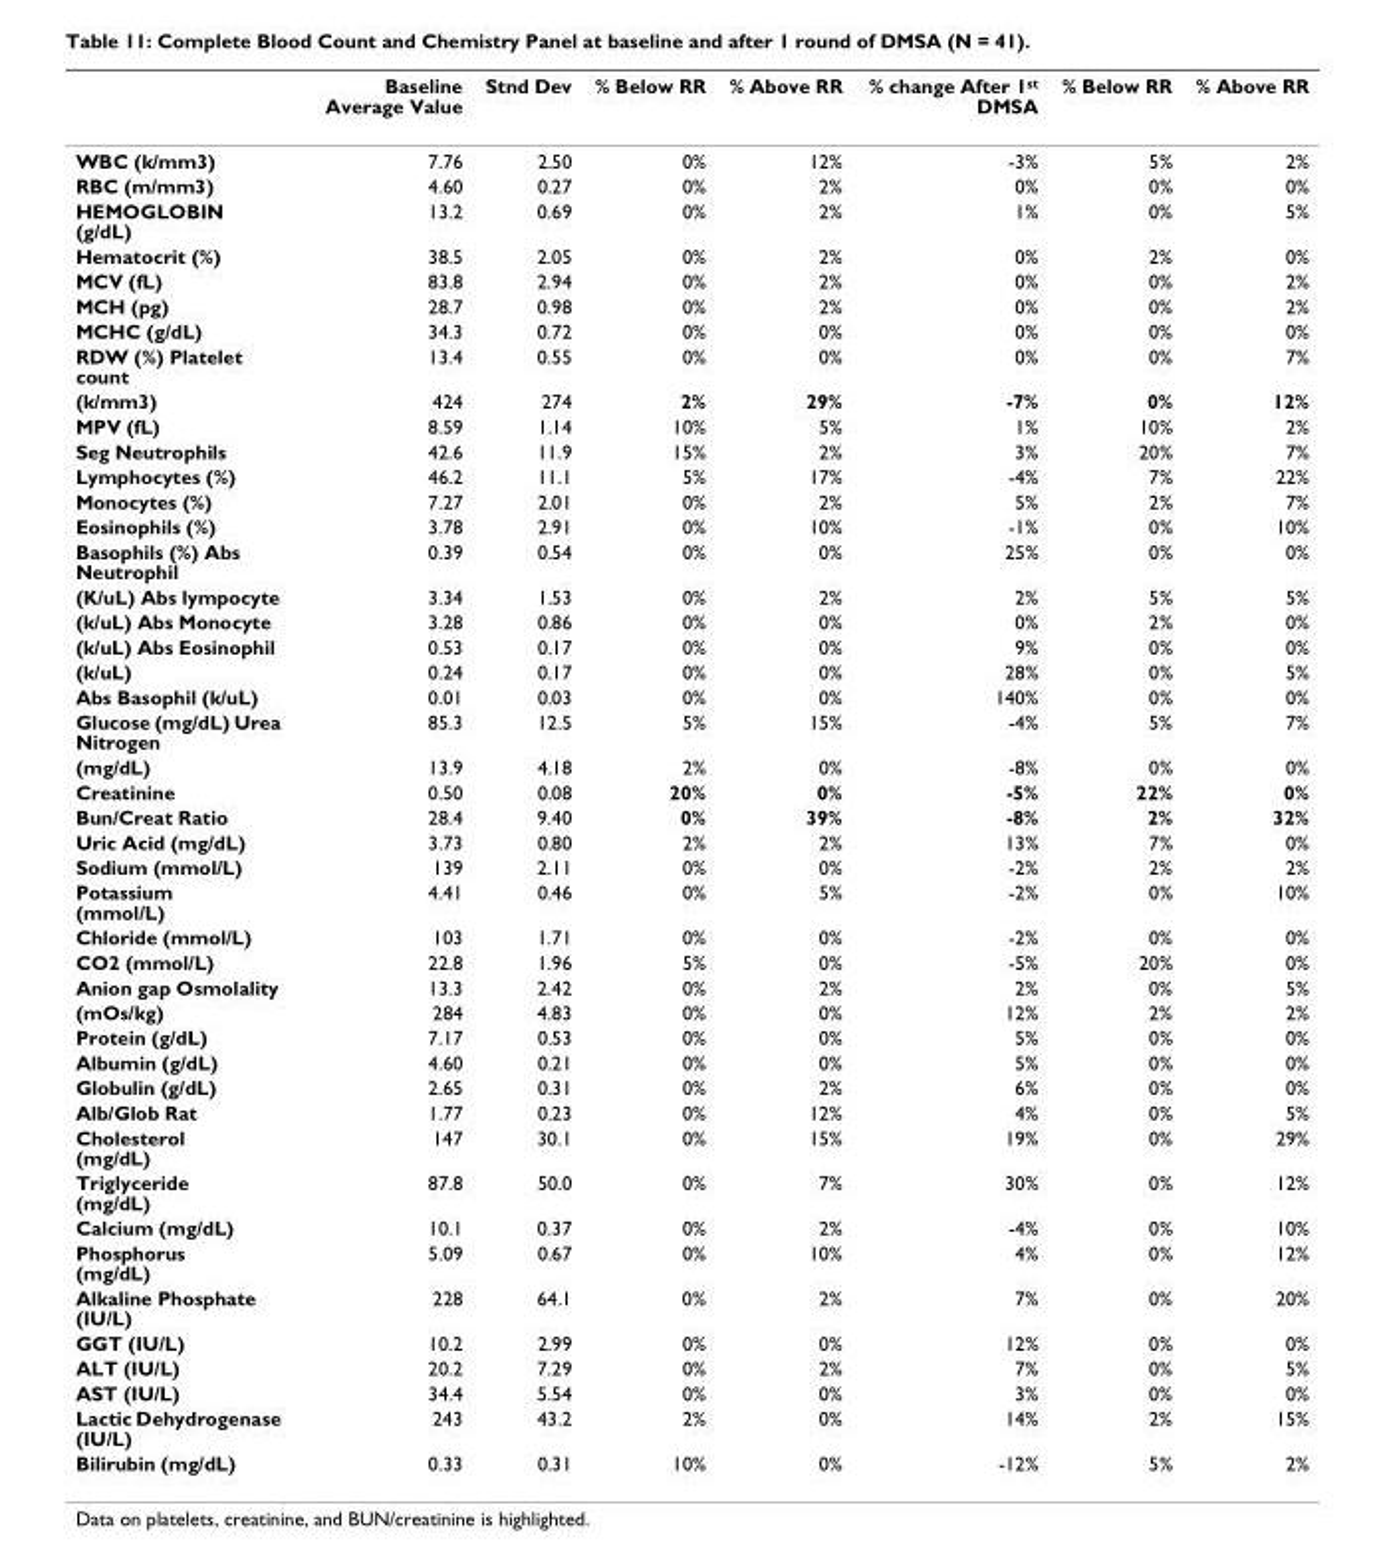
<table><thead><tr><td></td><td>Baseline Average Value</td><td>Stnd Dev</td><td>% Below RR</td><td>% Above RR</td><td>% change After 1<sup>st</sup> DMSA</td><td>% Below RR</td><td>% Above RR</td></tr></thead><tbody><tr><td>WBC (k/mm3)</td><td>7.76</td><td>2.50</td><td>0%</td><td>12%</td><td>-3%</td><td>5%</td><td>2%</td></tr><tr><td>RBC (m/mm3)</td><td>4.60</td><td>0.27</td><td>0%</td><td>2%</td><td>0%</td><td>0%</td><td>0%</td></tr><tr><td>HEMOGLOBIN (g/dL)</td><td>13.2</td><td>0.69</td><td>0%</td><td>2%</td><td>1%</td><td>0%</td><td>5%</td></tr><tr><td>Hematocrit (%)</td><td>38.5</td><td>2.05</td><td>0%</td><td>2%</td><td>0%</td><td>2%</td><td>0%</td></tr><tr><td>MCV (fL)</td><td>83.8</td><td>2.94</td><td>0%</td><td>2%</td><td>0%</td><td>0%</td><td>2%</td></tr><tr><td>MCH (pg)</td><td>28.7</td><td>0.98</td><td>0%</td><td>2%</td><td>0%</td><td>0%</td><td>2%</td></tr><tr><td>MCHC (g/dL)</td><td>34.3</td><td>0.72</td><td>0%</td><td>0%</td><td>0%</td><td>0%</td><td>0%</td></tr><tr><td>RDW (%) Platelet count</td><td>13.4</td><td>0.55</td><td>0%</td><td>0%</td><td>0%</td><td>0%</td><td>7%</td></tr><tr><td>(k/mm3)</td><td>424</td><td>274</td><td>2%</td><td>29%</td><td>-7%</td><td>0%</td><td>12%</td></tr><tr><td>MPV (fL)</td><td>8.59</td><td>1.14</td><td>10%</td><td>5%</td><td>1%</td><td>10%</td><td>2%</td></tr><tr><td>Seg Neutrophils</td><td>42.6</td><td>11.9</td><td>15%</td><td>2%</td><td>3%</td><td>20%</td><td>7%</td></tr><tr><td>Lymphocytes (%)</td><td>46.2</td><td>11.1</td><td>5%</td><td>17%</td><td>-4%</td><td>7%</td><td>22%</td></tr><tr><td>Monocytes (%)</td><td>7.27</td><td>2.01</td><td>0%</td><td>2%</td><td>5%</td><td>2%</td><td>7%</td></tr><tr><td>Eosinophils (%)</td><td>3.78</td><td>2.91</td><td>0%</td><td>10%</td><td>-1%</td><td>0%</td><td>10%</td></tr><tr><td>Basophils (%) Abs Neutrophil</td><td>0.39</td><td>0.54</td><td>0%</td><td>0%</td><td>25%</td><td>0%</td><td>0%</td></tr><tr><td>(K/uL) Abs lympocyte</td><td>3.34</td><td>1.53</td><td>0%</td><td>2%</td><td>2%</td><td>5%</td><td>5%</td></tr><tr><td>(k/uL) Abs Monocyte</td><td>3.28</td><td>0.86</td><td>0%</td><td>0%</td><td>0%</td><td>2%</td><td>0%</td></tr><tr><td>(k/uL) Abs Eosinophil</td><td>0.53</td><td>0.17</td><td>0%</td><td>0%</td><td>9%</td><td>0%</td><td>0%</td></tr><tr><td>(k/uL)</td><td>0.24</td><td>0.17</td><td>0%</td><td>0%</td><td>28%</td><td>0%</td><td>5%</td></tr><tr><td>Abs Basophil (k/uL)</td><td>0.01</td><td>0.03</td><td>0%</td><td>0%</td><td>140%</td><td>0%</td><td>0%</td></tr><tr><td>Glucose (mg/dL) Urea Nitrogen</td><td>85.3</td><td>12.5</td><td>5%</td><td>15%</td><td>-4%</td><td>5%</td><td>7%</td></tr><tr><td>(mg/dL)</td><td>13.9</td><td>4.18</td><td>2%</td><td>0%</td><td>-8%</td><td>0%</td><td>0%</td></tr><tr><td>Creatinine</td><td>0.50</td><td>0.08</td><td>20%</td><td>0%</td><td>-5%</td><td>22%</td><td>0%</td></tr><tr><td>Bun/Creat Ratio</td><td>28.4</td><td>9.40</td><td>0%</td><td>39%</td><td>-8%</td><td>2%</td><td>32%</td></tr><tr><td>Uric Acid (mg/dL)</td><td>3.73</td><td>0.80</td><td>2%</td><td>2%</td><td>13%</td><td>7%</td><td>0%</td></tr><tr><td>Sodium (mmol/L)</td><td>139</td><td>2.11</td><td>0%</td><td>0%</td><td>-2%</td><td>2%</td><td>2%</td></tr><tr><td>Potassium (mmol/L)</td><td>4.41</td><td>0.46</td><td>0%</td><td>5%</td><td>-2%</td><td>0%</td><td>10%</td></tr><tr><td>Chloride (mmol/L)</td><td>103</td><td>1.71</td><td>0%</td><td>0%</td><td>-2%</td><td>0%</td><td>0%</td></tr><tr><td>CO2 (mmol/L)</td><td>22.8</td><td>1.96</td><td>5%</td><td>0%</td><td>-5%</td><td>20%</td><td>0%</td></tr><tr><td>Anion gap Osmolality</td><td>13.3</td><td>2.42</td><td>0%</td><td>2%</td><td>2%</td><td>0%</td><td>5%</td></tr><tr><td>(mOs/kg)</td><td>284</td><td>4.83</td><td>0%</td><td>0%</td><td>12%</td><td>2%</td><td>2%</td></tr><tr><td>Protein (g/dL)</td><td>7.17</td><td>0.53</td><td>0%</td><td>0%</td><td>5%</td><td>0%</td><td>0%</td></tr><tr><td>Albumin (g/dL)</td><td>4.60</td><td>0.21</td><td>0%</td><td>0%</td><td>5%</td><td>0%</td><td>0%</td></tr><tr><td>Globulin (g/dL)</td><td>2.65</td><td>0.31</td><td>0%</td><td>2%</td><td>6%</td><td>0%</td><td>0%</td></tr><tr><td>Alb/Glob Rat</td><td>1.77</td><td>0.23</td><td>0%</td><td>12%</td><td>4%</td><td>0%</td><td>5%</td></tr><tr><td>Cholesterol (mg/dL)</td><td>147</td><td>30.1</td><td>0%</td><td>15%</td><td>19%</td><td>0%</td><td>29%</td></tr><tr><td>Triglyceride (mg/dL)</td><td>87.8</td><td>50.0</td><td>0%</td><td>7%</td><td>30%</td><td>0%</td><td>12%</td></tr><tr><td>Calcium (mg/dL)</td><td>10.1</td><td>0.37</td><td>0%</td><td>2%</td><td>-4%</td><td>0%</td><td>10%</td></tr><tr><td>Phosphorus (mg/dL)</td><td>5.09</td><td>0.67</td><td>0%</td><td>10%</td><td>4%</td><td>0%</td><td>12%</td></tr><tr><td>Alkaline Phosphate (IU/L)</td><td>228</td><td>64.1</td><td>0%</td><td>2%</td><td>7%</td><td>0%</td><td>20%</td></tr><tr><td>GGT (IU/L)</td><td>10.2</td><td>2.99</td><td>0%</td><td>0%</td><td>12%</td><td>0%</td><td>0%</td></tr><tr><td>ALT (IU/L)</td><td>20.2</td><td>7.29</td><td>0%</td><td>2%</td><td>7%</td><td>0%</td><td>5%</td></tr><tr><td>AST (IU/L)</td><td>34.4</td><td>5.54</td><td>0%</td><td>0%</td><td>3%</td><td>0%</td><td>0%</td></tr><tr><td>Lactic Dehydrogenase (IU/L)</td><td>243</td><td>43.2</td><td>2%</td><td>0%</td><td>14%</td><td>2%</td><td>15%</td></tr><tr><td>Bilirubin (mg/dL)</td><td>0.33</td><td>0.31</td><td>10%</td><td>0%</td><td>-12%</td><td>5%</td><td>2%</td></tr></tbody></table>